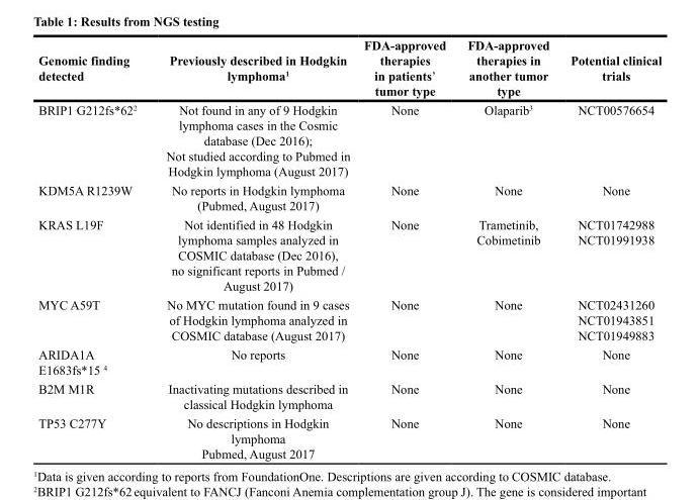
<table><thead><tr><td>Genomic finding detected</td><td>Previously described in Hodgkin lymphoma<sup>1</sup></td><td>FDA-approved therapies in patients’ tumor type</td><td>FDA-approved therapies in another tumor type</td><td>Potential clinical trials</td></tr></thead><tbody><tr><td>BRIP1 G212fs*62<sup>2</sup></td><td>Not found in any of 9 Hodgkin lymphoma cases in the Cosmic database (Dec 2016); Not studied according to Pubmed in Hodgkin lymphoma (August 2017)</td><td>None</td><td>Olaparib<sup>3</sup></td><td>NCT00576654</td></tr><tr><td>KDM5A R1239W</td><td>No reports in Hodgkin lymphoma (Pubmed, August 2017)</td><td>None</td><td>None</td><td>None</td></tr><tr><td>KRAS L19F</td><td>Not identified in 48 Hodgkin lymphoma samples analyzed in COSMIC database (Dec 2016), no significant reports in Pubmed / August 2017)</td><td>None</td><td>Trametinib, Cobimetinib</td><td>NCT01742988 NCT01991938</td></tr><tr><td>MYC A59T</td><td>No MYC mutation found in 9 cases of Hodgkin lymphoma analyzed in COSMIC database (August 2017)</td><td>None</td><td>None</td><td>NCT02431260 NCT01943851 NCT01949883</td></tr><tr><td>ARIDA1A E1683fs*15 <sup>4</sup></td><td>No reports</td><td>None</td><td>None</td><td>None</td></tr><tr><td>B2M M1R</td><td>Inactivating mutations described in classical Hodgkin lymphoma</td><td>None</td><td>None</td><td>None</td></tr><tr><td>TP53 C277Y</td><td>No descriptions in Hodgkin lymphoma Pubmed, August 2017</td><td>None</td><td>None</td><td>None</td></tr></tbody></table>